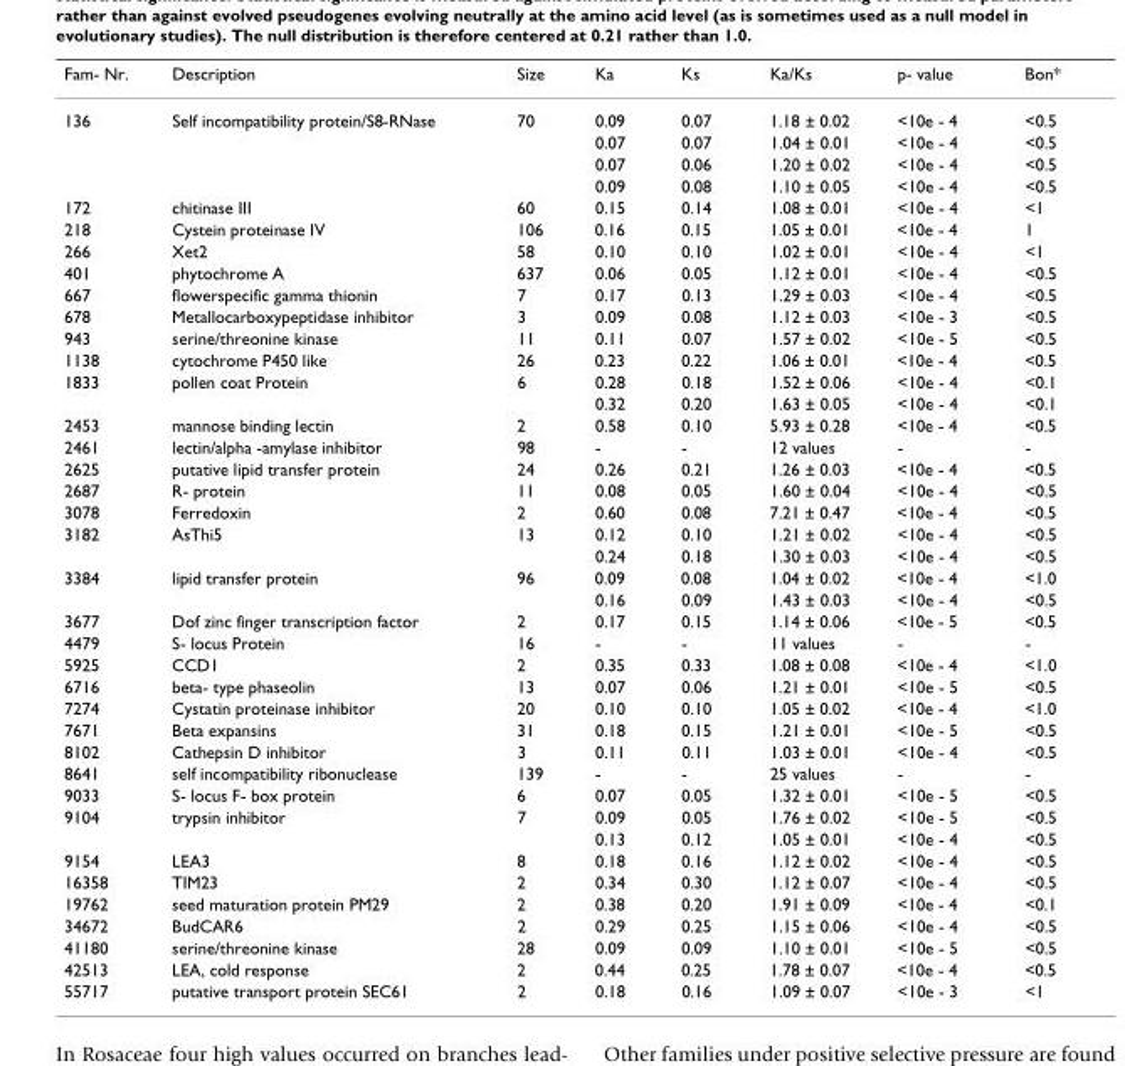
<table><thead><tr><td>Fam- Nr.</td><td>Description</td><td>Size</td><td>Ka</td><td>Ks</td><td>Ka/Ks</td><td>p- value</td><td>Bon*</td></tr></thead><tbody><tr><td rowspan="4">136</td><td>Self incompatibility protein/S8-RNase</td><td>70</td><td>0.09</td><td>0.07</td><td>1.18 ± 0.02</td><td>&lt;10e - 4</td><td>&lt;0.5</td></tr><tr><td></td><td></td><td>0.07</td><td>0.07</td><td>1.04 ± 0.01</td><td>&lt;10e - 4</td><td>&lt;0.5</td></tr><tr><td></td><td></td><td>0.07</td><td>0.06</td><td>1.20 ± 0.02</td><td>&lt;10e - 4</td><td>&lt;0.5</td></tr><tr><td></td><td></td><td>0.09</td><td>0.08</td><td>1.10 ± 0.05</td><td>&lt;10e - 4</td><td>&lt;0.5</td></tr><tr><td>172</td><td>chitinase III</td><td>60</td><td>0.15</td><td>0.14</td><td>1.08 ± 0.01</td><td>&lt;10e - 4</td><td>&lt;1</td></tr><tr><td>218</td><td>Cystein proteinase IV</td><td>106</td><td>0.16</td><td>0.15</td><td>1.05 ± 0.01</td><td>&lt;10e - 4</td><td>1</td></tr><tr><td>266</td><td>Xet2</td><td>58</td><td>0.10</td><td>0.10</td><td>1.02 ± 0.01</td><td>&lt;10e - 4</td><td>&lt;1</td></tr><tr><td>401</td><td>phytochrome A</td><td>637</td><td>0.06</td><td>0.05</td><td>1.12 ± 0.01</td><td>&lt;10e - 4</td><td>&lt;0.5</td></tr><tr><td>667</td><td>flowerspecific gamma thionin</td><td>7</td><td>0.17</td><td>0.13</td><td>1.29 ± 0.03</td><td>&lt;10e - 4</td><td>&lt;0.5</td></tr><tr><td>678</td><td>Metallocarboxypeptidase inhibitor</td><td>3</td><td>0.09</td><td>0.08</td><td>1.12 ± 0.03</td><td>&lt;10e - 3</td><td>&lt;0.5</td></tr><tr><td>943</td><td>serine/threonine kinase</td><td>11</td><td>0.11</td><td>0.07</td><td>1.57 ± 0.02</td><td>&lt;10e - 5</td><td>&lt;0.5</td></tr><tr><td>1138</td><td>cytochrome P450 like</td><td>26</td><td>0.23</td><td>0.22</td><td>1.06 ± 0.01</td><td>&lt;10e - 4</td><td>&lt;0.5</td></tr><tr><td rowspan="2">1833</td><td>pollen coat Protein</td><td>6</td><td>0.28</td><td>0.18</td><td>1.52 ± 0.06</td><td>&lt;10e - 4</td><td>&lt;0.1</td></tr><tr><td></td><td></td><td>0.32</td><td>0.20</td><td>1.63 ± 0.05</td><td>&lt;10e - 4</td><td>&lt;0.1</td></tr><tr><td>2453</td><td>mannose binding lectin</td><td>2</td><td>0.58</td><td>0.10</td><td>5.93 ± 0.28</td><td>&lt;10e - 4</td><td>&lt;0.5</td></tr><tr><td>2461</td><td>lectin/alpha -amylase inhibitor</td><td>98</td><td>-</td><td>-</td><td>12 values</td><td>-</td><td>-</td></tr><tr><td>2625</td><td>putative lipid transfer protein</td><td>24</td><td>0.26</td><td>0.21</td><td>1.26 ± 0.03</td><td>&lt;10e - 4</td><td>&lt;0.5</td></tr><tr><td>2687</td><td>R- protein</td><td>11</td><td>0.08</td><td>0.05</td><td>1.60 ± 0.04</td><td>&lt;10e - 4</td><td>&lt;0.5</td></tr><tr><td>3078</td><td>Ferredoxin</td><td>2</td><td>0.60</td><td>0.08</td><td>7.21 ± 0.47</td><td>&lt;10e - 4</td><td>&lt;0.5</td></tr><tr><td rowspan="2">3182</td><td>AsThi5</td><td>13</td><td>0.12</td><td>0.10</td><td>1.21 ± 0.02</td><td>&lt;10e - 4</td><td>&lt;0.5</td></tr><tr><td></td><td></td><td>0.24</td><td>0.18</td><td>1.30 ± 0.03</td><td>&lt;10e - 4</td><td>&lt;0.5</td></tr><tr><td rowspan="2">3384</td><td>lipid transfer protein</td><td>96</td><td>0.09</td><td>0.08</td><td>1.04 ± 0.02</td><td>&lt;10e - 4</td><td>&lt;1.0</td></tr><tr><td></td><td></td><td>0.16</td><td>0.09</td><td>1.43 ± 0.03</td><td>&lt;10e - 4</td><td>&lt;0.5</td></tr><tr><td>3677</td><td>Dof zinc finger transcription factor</td><td>2</td><td>0.17</td><td>0.15</td><td>1.14 ± 0.06</td><td>&lt;10e - 5</td><td>&lt;0.5</td></tr><tr><td>4479</td><td>S- locus Protein</td><td>16</td><td>-</td><td>-</td><td>11 values</td><td>-</td><td>-</td></tr><tr><td>5925</td><td>CCD1</td><td>2</td><td>0.35</td><td>0.33</td><td>1.08 ± 0.08</td><td>&lt;10e - 4</td><td>&lt;1.0</td></tr><tr><td>6716</td><td>beta- type phaseolin</td><td>13</td><td>0.07</td><td>0.06</td><td>1.21 ± 0.01</td><td>&lt;10e - 5</td><td>&lt;0.5</td></tr><tr><td>7274</td><td>Cystatin proteinase inhibitor</td><td>20</td><td>0.10</td><td>0.10</td><td>1.05 ± 0.02</td><td>&lt;10e - 4</td><td>&lt;1.0</td></tr><tr><td>7671</td><td>Beta expansins</td><td>31</td><td>0.18</td><td>0.15</td><td>1.21 ± 0.01</td><td>&lt;10e - 5</td><td>&lt;0.5</td></tr><tr><td>8102</td><td>Cathepsin D inhibitor</td><td>3</td><td>0.11</td><td>0.11</td><td>1.03 ± 0.01</td><td>&lt;10e - 4</td><td>&lt;0.5</td></tr><tr><td>8641</td><td>self incompatibility ribonuclease</td><td>139</td><td>-</td><td>-</td><td>25 values</td><td>-</td><td>-</td></tr><tr><td>9033</td><td>S- locus F- box protein</td><td>6</td><td>0.07</td><td>0.05</td><td>1.32 ± 0.01</td><td>&lt;10e - 5</td><td>&lt;0.5</td></tr><tr><td rowspan="2">9104</td><td>trypsin inhibitor</td><td>7</td><td>0.09</td><td>0.05</td><td>1.76 ± 0.02</td><td>&lt;10e - 5</td><td>&lt;0.5</td></tr><tr><td></td><td></td><td>0.13</td><td>0.12</td><td>1.05 ± 0.01</td><td>&lt;10e - 4</td><td>&lt;0.5</td></tr><tr><td>9154</td><td>LEA3</td><td>8</td><td>0.18</td><td>0.16</td><td>1.12 ± 0.02</td><td>&lt;10e - 4</td><td>&lt;0.5</td></tr><tr><td>16358</td><td>TIM23</td><td>2</td><td>0.34</td><td>0.30</td><td>1.12 ± 0.07</td><td>&lt;10e - 4</td><td>&lt;0.5</td></tr><tr><td>19762</td><td>seed maturation protein PM29</td><td>2</td><td>0.38</td><td>0.20</td><td>1.91 ± 0.09</td><td>&lt;10e - 4</td><td>&lt;0.1</td></tr><tr><td>34672</td><td>BudCAR6</td><td>2</td><td>0.29</td><td>0.25</td><td>1.15 ± 0.06</td><td>&lt;10e - 4</td><td>&lt;0.5</td></tr><tr><td>41180</td><td>serine/threonine kinase</td><td>28</td><td>0.09</td><td>0.09</td><td>1.10 ± 0.01</td><td>&lt;10e - 5</td><td>&lt;0.5</td></tr><tr><td>42513</td><td>LEA, cold response</td><td>2</td><td>0.44</td><td>0.25</td><td>1.78 ± 0.07</td><td>&lt;10e - 4</td><td>&lt;0.5</td></tr><tr><td>55717</td><td>putative transport protein SEC61</td><td>2</td><td>0.18</td><td>0.16</td><td>1.09 ± 0.07</td><td>&lt;10e - 3</td><td>&lt;1</td></tr></tbody></table>